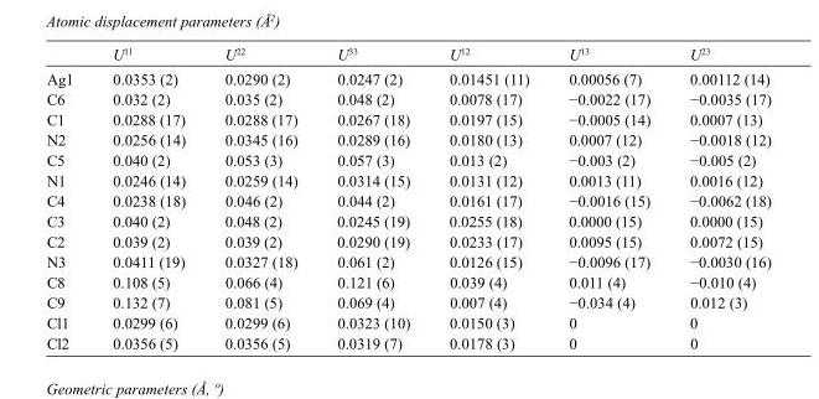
<table><thead><tr><td></td><td>U<sup>11</sup></td><td>U<sup>22</sup></td><td>U<sup>33</sup></td><td>U<sup>12</sup></td><td>U<sup>13</sup></td><td>U<sup>23</sup></td></tr></thead><tbody><tr><td>Ag1</td><td>0.0353 (2)</td><td>0.0290 (2)</td><td>0.0247 (2)</td><td>0.01451 (11)</td><td>0.00056 (7)</td><td>0.00112 (14)</td></tr><tr><td>C6</td><td>0.032 (2)</td><td>0.035 (2)</td><td>0.048 (2)</td><td>0.0078 (17)</td><td>−0.0022 (17)</td><td>−0.0035 (17)</td></tr><tr><td>C1</td><td>0.0288 (17)</td><td>0.0288 (17)</td><td>0.0267 (18)</td><td>0.0197 (15)</td><td>−0.0005 (14)</td><td>0.0007 (13)</td></tr><tr><td>N2</td><td>0.0256 (14)</td><td>0.0345 (16)</td><td>0.0289 (16)</td><td>0.0180 (13)</td><td>0.0007 (12)</td><td>−0.0018 (12)</td></tr><tr><td>C5</td><td>0.040 (2)</td><td>0.053 (3)</td><td>0.057 (3)</td><td>0.013 (2)</td><td>−0.003 (2)</td><td>−0.005 (2)</td></tr><tr><td>N1</td><td>0.0246 (14)</td><td>0.0259 (14)</td><td>0.0314 (15)</td><td>0.0131 (12)</td><td>0.0013 (11)</td><td>0.0016 (12)</td></tr><tr><td>C4</td><td>0.0238 (18)</td><td>0.046 (2)</td><td>0.044 (2)</td><td>0.0161 (17)</td><td>−0.0016 (15)</td><td>−0.0062 (18)</td></tr><tr><td>C3</td><td>0.040 (2)</td><td>0.048 (2)</td><td>0.0245 (19)</td><td>0.0255 (18)</td><td>0.0000 (15)</td><td>0.0000 (15)</td></tr><tr><td>C2</td><td>0.039 (2)</td><td>0.039 (2)</td><td>0.0290 (19)</td><td>0.0233 (17)</td><td>0.0095 (15)</td><td>0.0072 (15)</td></tr><tr><td>N3</td><td>0.0411 (19)</td><td>0.0327 (18)</td><td>0.061 (2)</td><td>0.0126 (15)</td><td>−0.0096 (17)</td><td>−0.0030 (16)</td></tr><tr><td>C8</td><td>0.108 (5)</td><td>0.066 (4)</td><td>0.121 (6)</td><td>0.039 (4)</td><td>0.011 (4)</td><td>−0.010 (4)</td></tr><tr><td>C9</td><td>0.132 (7)</td><td>0.081 (5)</td><td>0.069 (4)</td><td>0.007 (4)</td><td>−0.034 (4)</td><td>0.012 (3)</td></tr><tr><td>Cl1</td><td>0.0299 (6)</td><td>0.0299 (6)</td><td>0.0323 (10)</td><td>0.0150 (3)</td><td>0</td><td>0</td></tr><tr><td>Cl2</td><td>0.0356 (5)</td><td>0.0356 (5)</td><td>0.0319 (7)</td><td>0.0178 (3)</td><td>0</td><td>0</td></tr></tbody></table>